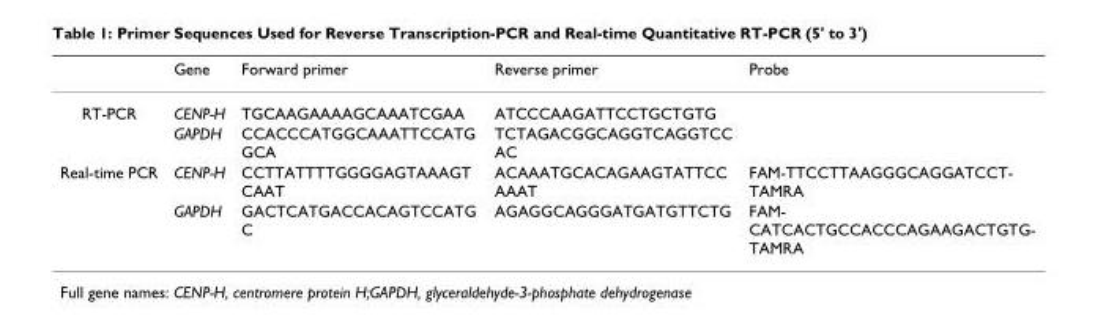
<table><thead><tr><td></td><td>Gene</td><td>Forward primer</td><td>Reverse primer</td><td>Probe</td></tr></thead><tbody><tr><td rowspan="2">RT-PCR</td><td>CENP-H</td><td>TGCAAGAAAAGCAAATCGAA</td><td>ATCCCAAGATTCCTGCTGTG</td><td></td></tr><tr><td>GAPDH</td><td>CCACCCATGGCAAATTCCATG GCA</td><td>TCTAGACGGCAGGTCAGGTCC AC</td><td></td></tr><tr><td rowspan="2">Real-time PCR</td><td>CENP-H</td><td>CCTTATTTTGGGGAGTAAAGT CAAT</td><td>ACAAATGCACAGAAGTATTCC AAAT</td><td>FAM-TTCCTTAAGGGCAGGATCCT- TAMRA</td></tr><tr><td>GAPDH</td><td>GACTCATGACCACAGTCCATG C</td><td>AGAGGCAGGGATGATGTTCTG</td><td>FAM- CATCACTGCCACCCAGAAGACTGTG- TAMRA</td></tr></tbody></table>